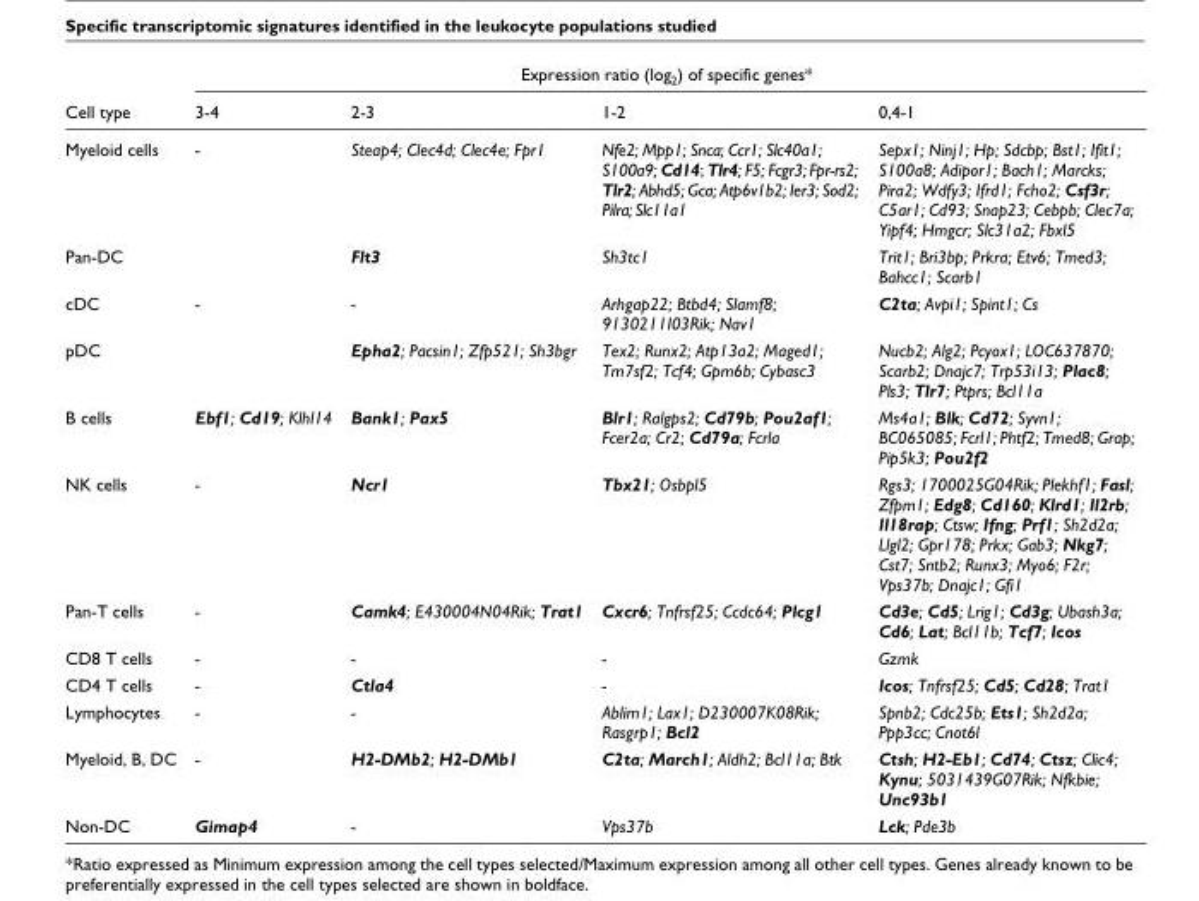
<table><thead><tr><td rowspan="2">Cell type</td><td colspan="4">Expression ratio (log<sub>2</sub>) of specific genes*</td></tr><tr><td>3-4</td><td>2-3</td><td>1-2</td><td>0,4-1</td></tr></thead><tbody><tr><td>Myeloid cells</td><td>-</td><td>Steap4; Clec4d; Clec4e; Fpr1</td><td>Nfe2; Mpp1; Snca; Ccr1; Slc40a1; S100a9; Cd14; Tlr4; F5; Fcgr3; Fpr-rs2; Tlr2; Abhd5; Gca; Atp6v1b2; Ier3; Sod2; Pilra; Slc11a1</td><td>Sepx1; Ninj1; Hp; Sdcbp; Bst1; Ifit1; S100a8; Adipor1; Bach1; Marcks; Pira2; Wdfy3; Ifrd1; Fcho2; Csf3r; C5ar1; Cd93; Snap23; Cebpb; Clec7a; Yipf4; Hmgcr; Slc31a2; Fbxl5</td></tr><tr><td>Pan-DC</td><td></td><td>Flt3</td><td>Sh3tc1</td><td>Trit1; Bri3bp; Prkra; Etv6; Tmed3; Bahcc1; Scarb1</td></tr><tr><td>cDC</td><td>-</td><td>-</td><td>Arhgap22; Btbd4; Slamf8; 9130211I03Rik; Nav1</td><td>C2ta; Avpi1; Spint1; Cs</td></tr><tr><td>pDC</td><td></td><td>Epha2; Pacsin1; Zfp521; Sh3bgr</td><td>Tex2; Runx2; Atp13a2; Maged1; Tm7sf2; Tcf4; Gpm6b; Cybasc3</td><td>Nucb2; Alg2; Pcyox1; LOC637870; Scarb2; Dnajc7; Trp53i13; Plac8; Pls3; Tlr7; Ptprs; Bcl11a</td></tr><tr><td>B cells</td><td>Ebf1; Cd19; Klhl14</td><td>Bank1; Pax5</td><td>Blr1; Ralgps2; Cd79b; Pou2af1; Fcer2a; Cr2; Cd79a; Fcrla</td><td>Ms4a1; Blk; Cd72; Syvn1; BC065085; Fcrl1; Phtf2; Tmed8; Grap; Pip5k3; Pou2f2</td></tr><tr><td>NK cells</td><td>-</td><td>Ncr1</td><td>Tbx21; Osbpl5</td><td>Rgs3; 1700025G04Rik; Plekhf1; Fasl; Zfpm1; Edg8; Cd160; Klrd1; Il2rb; Il18rap; Ctsw; Ifng; Prf1; Sh2d2a; Llgl2; Gpr178; Prkx; Gab3; Nkg7; Cst7; Sntb2; Runx3; Myo6; F2r; Vps37b; Dnajc1; Gfi1</td></tr><tr><td>Pan-T cells</td><td>-</td><td>Camk4; E430004N04Rik; Trat1</td><td>Cxcr6; Tnfrsf25; Ccdc64; Plcg1</td><td>Cd3e; Cd5; Lrig1; Cd3g; Ubash3a; Cd6; Lat; Bcl11b; Tcf7; Icos</td></tr><tr><td>CD8 T cells</td><td>-</td><td>-</td><td>-</td><td>Gzmk</td></tr><tr><td>CD4 T cells</td><td>-</td><td>Ctla4</td><td>-</td><td>Icos; Tnfrsf25; Cd5; Cd28; Trat1</td></tr><tr><td>Lymphocytes</td><td>-</td><td>-</td><td>Ablim1; Lax1; D230007K08Rik; Rasgrp1; Bcl2</td><td>Spnb2; Cdc25b; Ets1; Sh2d2a; Ppp3cc; Cnot6l</td></tr><tr><td>Myeloid, B, DC</td><td>-</td><td>H2-DMb2; H2-DMb1</td><td>C2ta; March1; Aldh2; Bcl11a; Btk</td><td>Ctsh; H2-Eb1; Cd74; Ctsz; Clic4; Kynu; 5031439G07Rik; Nfkbie; Unc93b1</td></tr><tr><td>Non-DC</td><td>Gimap4</td><td>-</td><td>Vps37b</td><td>Lck; Pde3b</td></tr></tbody></table>